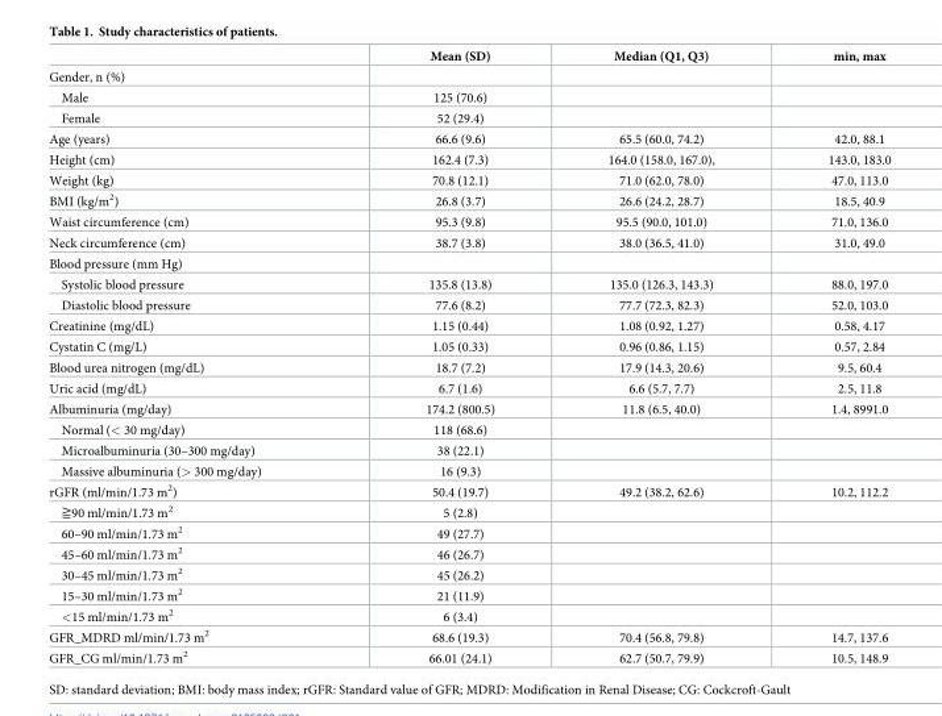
<table><thead><tr><td></td><td>Mean (SD)</td><td>Median (Q1, Q3)</td><td>min, max</td></tr></thead><tbody><tr><td colspan="4">Gender, n (%)</td></tr><tr><td>Male</td><td>125 (70.6)</td><td></td><td></td></tr><tr><td>Female</td><td>52 (29.4)</td><td></td><td></td></tr><tr><td>Age (years)</td><td>66.6 (9.6)</td><td>65.5 (60.0, 74.2)</td><td>42.0, 88.1</td></tr><tr><td>Height (cm)</td><td>162.4 (7.3)</td><td>164.0 (158.0, 167.0),</td><td>143.0, 183.0</td></tr><tr><td>Weight (kg)</td><td>70.8 (12.1)</td><td>71.0 (62.0, 78.0)</td><td>47.0, 113.0</td></tr><tr><td>BMI (kg/m<sup>2</sup>)</td><td>26.8 (3.7)</td><td>26.6 (24.2, 28.7)</td><td>18.5, 40.9</td></tr><tr><td>Waist circumference (cm)</td><td>95.3 (9.8)</td><td>95.5 (90.0, 101.0)</td><td>71.0, 136.0</td></tr><tr><td>Neck circumference (cm)</td><td>38.7 (3.8)</td><td>38.0 (36.5, 41.0)</td><td>31.0, 49.0</td></tr><tr><td colspan="4">Blood pressure (mm Hg)</td></tr><tr><td>Systolic blood pressure</td><td>135.8 (13.8)</td><td>135.0 (126.3, 143.3)</td><td>88.0, 197.0</td></tr><tr><td>Diastolic blood pressure</td><td>77.6 (8.2)</td><td>77.7 (72.3, 82.3)</td><td>52.0, 103.0</td></tr><tr><td>Creatinine (mg/dL)</td><td>1.15 (0.44)</td><td>1.08 (0.92, 1.27)</td><td>0.58, 4.17</td></tr><tr><td>Cystatin C (mg/L)</td><td>1.05 (0.33)</td><td>0.96 (0.86, 1.15)</td><td>0.57, 2.84</td></tr><tr><td>Blood urea nitrogen (mg/dL)</td><td>18.7 (7.2)</td><td>17.9 (14.3, 20.6)</td><td>9.5, 60.4</td></tr><tr><td>Uric acid (mg/dL)</td><td>6.7 (1.6)</td><td>6.6 (5.7, 7.7)</td><td>2.5, 11.8</td></tr><tr><td>Albuminuria (mg/day)</td><td>174.2 (800.5)</td><td>11.8 (6.5, 40.0)</td><td>1.4, 8991.0</td></tr><tr><td>Normal (&lt; 30 mg/day)</td><td>118 (68.6)</td><td></td><td></td></tr><tr><td>Microalbuminuria (30–300 mg/day)</td><td>38 (22.1)</td><td></td><td></td></tr><tr><td>Massive albuminuria (&gt; 300 mg/day)</td><td>16 (9.3)</td><td></td><td></td></tr><tr><td>rGFR (ml/min/1.73 m<sup>2</sup>)</td><td>50.4 (19.7)</td><td>49.2 (38.2, 62.6)</td><td>10.2, 112.2</td></tr><tr><td>≧90 ml/min/1.73 m<sup>2</sup></td><td>5 (2.8)</td><td></td><td></td></tr><tr><td>60–90 ml/min/1.73 m<sup>2</sup></td><td>49 (27.7)</td><td></td><td></td></tr><tr><td>45–60 ml/min/1.73 m<sup>2</sup></td><td>46 (26.7)</td><td></td><td></td></tr><tr><td>30–45 ml/min/1.73 m<sup>2</sup></td><td>45 (26.2)</td><td></td><td></td></tr><tr><td>15–30 ml/min/1.73 m<sup>2</sup></td><td>21 (11.9)</td><td></td><td></td></tr><tr><td>&lt;15 ml/min/1.73 m<sup>2</sup></td><td>6 (3.4)</td><td></td><td></td></tr><tr><td>GFR_MDRD ml/min/1.73 m<sup>2</sup></td><td>68.6 (19.3)</td><td>70.4 (56.8, 79.8)</td><td>14.7, 137.6</td></tr><tr><td>GFR_CG ml/min/1.73 m<sup>2</sup></td><td>66.01 (24.1)</td><td>62.7 (50.7, 79.9)</td><td>10.5, 148.9</td></tr></tbody></table>